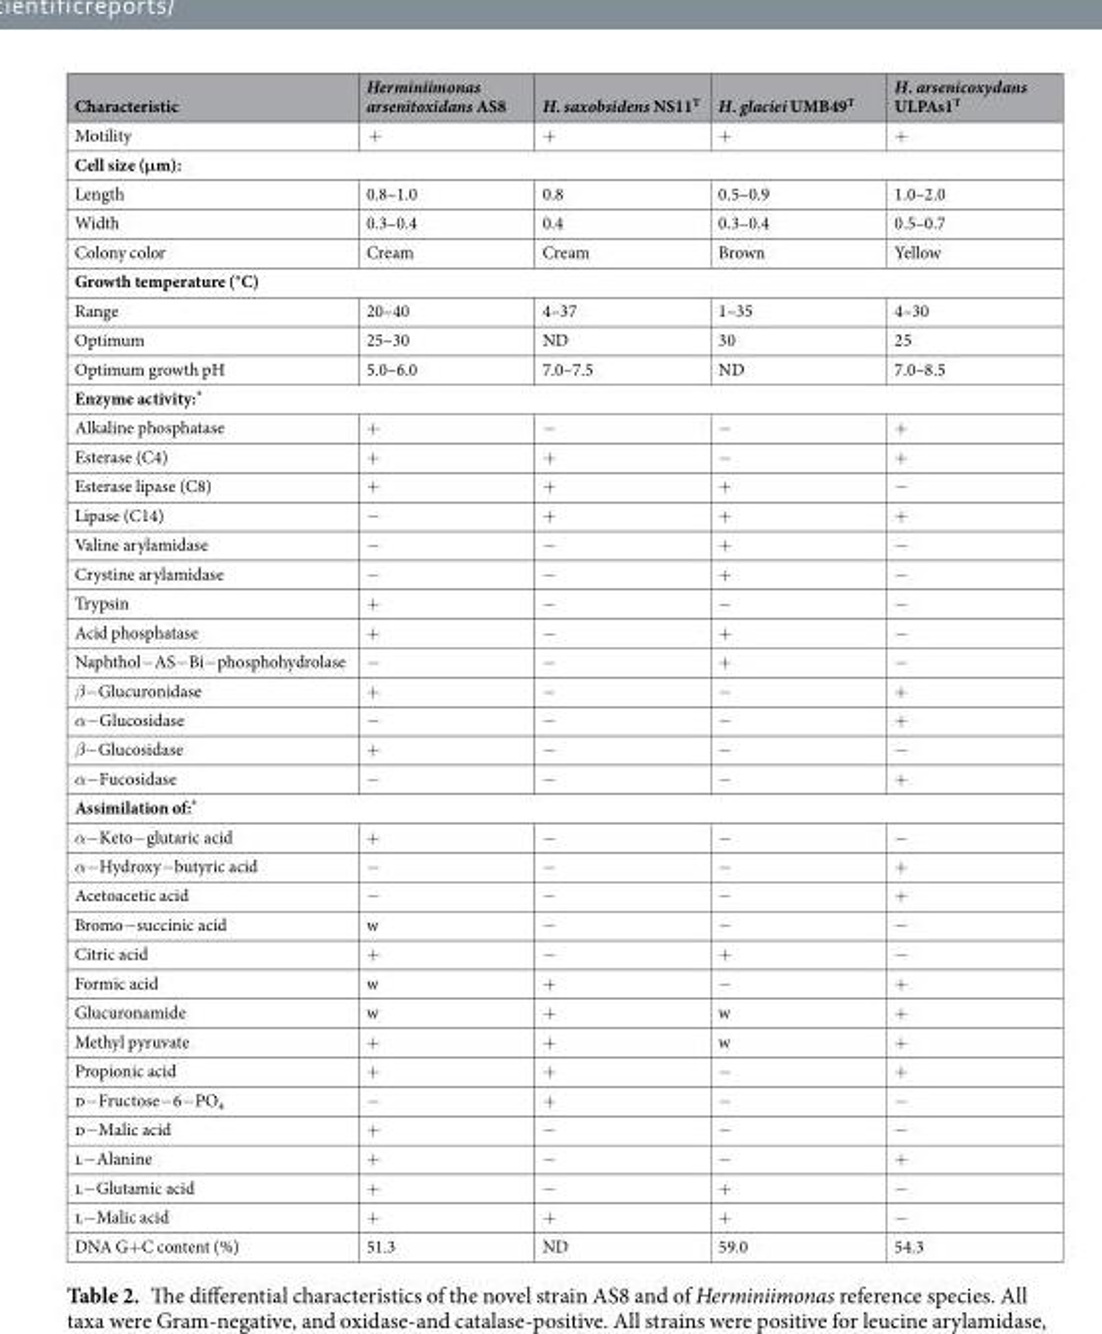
<table><thead><tr><td>Characteristic</td><td>Herminiimonas arsenitoxidans AS8</td><td>H. saxobsidens NS11<sup>T</sup></td><td>H. glaciei UMB49<sup>T</sup></td><td>H. arsenicoxydans ULPAs1<sup>T</sup></td></tr></thead><tbody><tr><td>Motility</td><td>+</td><td>+</td><td>+</td><td>+</td></tr><tr><td colspan="5">Cell size (μm):</td></tr><tr><td>Length</td><td>0.8–1.0</td><td>0.8</td><td>0.5–0.9</td><td>1.0–2.0</td></tr><tr><td>Width</td><td>0.3–0.4</td><td>0.4</td><td>0.3–0.4</td><td>0.5–0.7</td></tr><tr><td>Colony color</td><td>Cream</td><td>Cream</td><td>Brown</td><td>Yellow</td></tr><tr><td colspan="5">Growth temperature (°C)</td></tr><tr><td>Range</td><td>20–40</td><td>4–37</td><td>1–35</td><td>4–30</td></tr><tr><td>Optimum</td><td>25–30</td><td>ND</td><td>30</td><td>25</td></tr><tr><td>Optimum growth pH</td><td>5.0–6.0</td><td>7.0–7.5</td><td>ND</td><td>7.0–8.5</td></tr><tr><td colspan="5">Enzyme activity:*</td></tr><tr><td>Alkaline phosphatase</td><td>+</td><td>−</td><td>−</td><td>+</td></tr><tr><td>Esterase (C4)</td><td>+</td><td>+</td><td>−</td><td>+</td></tr><tr><td>Esterase lipase (C8)</td><td>+</td><td>+</td><td>+</td><td>−</td></tr><tr><td>Lipase (C14)</td><td>−</td><td>+</td><td>+</td><td>+</td></tr><tr><td>Valine arylamidase</td><td>−</td><td>−</td><td>+</td><td>−</td></tr><tr><td>Crystine arylamidase</td><td>−</td><td>−</td><td>+</td><td>−</td></tr><tr><td>Trypsin</td><td>+</td><td>−</td><td>−</td><td>−</td></tr><tr><td>Acid phosphatase</td><td>+</td><td>−</td><td>+</td><td>−</td></tr><tr><td>Naphthol−AS−Bi−phosphohydrolase</td><td>−</td><td>−</td><td>+</td><td>−</td></tr><tr><td>β−Glucuronidase</td><td>+</td><td>−</td><td>−</td><td>+</td></tr><tr><td>α−Glucosidase</td><td>−</td><td>−</td><td>−</td><td>+</td></tr><tr><td>β−Glucosidase</td><td>+</td><td>−</td><td>−</td><td>−</td></tr><tr><td>α−Fucosidase</td><td>−</td><td>−</td><td>−</td><td>+</td></tr><tr><td colspan="5">Assimilation of:*</td></tr><tr><td>α−Keto−glutaric acid</td><td>+</td><td>−</td><td>−</td><td>−</td></tr><tr><td>α−Hydroxy−butyric acid</td><td>−</td><td>−</td><td>−</td><td>+</td></tr><tr><td>Acetoacetic acid</td><td>−</td><td>−</td><td>−</td><td>+</td></tr><tr><td>Bromo−succinic acid</td><td>w</td><td>−</td><td>−</td><td>−</td></tr><tr><td>Citric acid</td><td>+</td><td>−</td><td>+</td><td>−</td></tr><tr><td>Formic acid</td><td>w</td><td>+</td><td>−</td><td>+</td></tr><tr><td>Glucuronamide</td><td>w</td><td>+</td><td>w</td><td>+</td></tr><tr><td>Methyl pyruvate</td><td>+</td><td>+</td><td>w</td><td>+</td></tr><tr><td>Propionic acid</td><td>+</td><td>+</td><td>−</td><td>+</td></tr><tr><td>d−Fructose−6−PO<sub>4</sub></td><td>−</td><td>+</td><td>−</td><td>−</td></tr><tr><td>d−Malic acid</td><td>+</td><td>−</td><td>−</td><td>−</td></tr><tr><td>l−Alanine</td><td>+</td><td>−</td><td>−</td><td>+</td></tr><tr><td>l−Glutamic acid</td><td>+</td><td>−</td><td>+</td><td>−</td></tr><tr><td>l−Malic acid</td><td>+</td><td>+</td><td>+</td><td>−</td></tr><tr><td>DNA G+C content (%)</td><td>51.3</td><td>ND</td><td>59.0</td><td>54.3</td></tr></tbody></table>